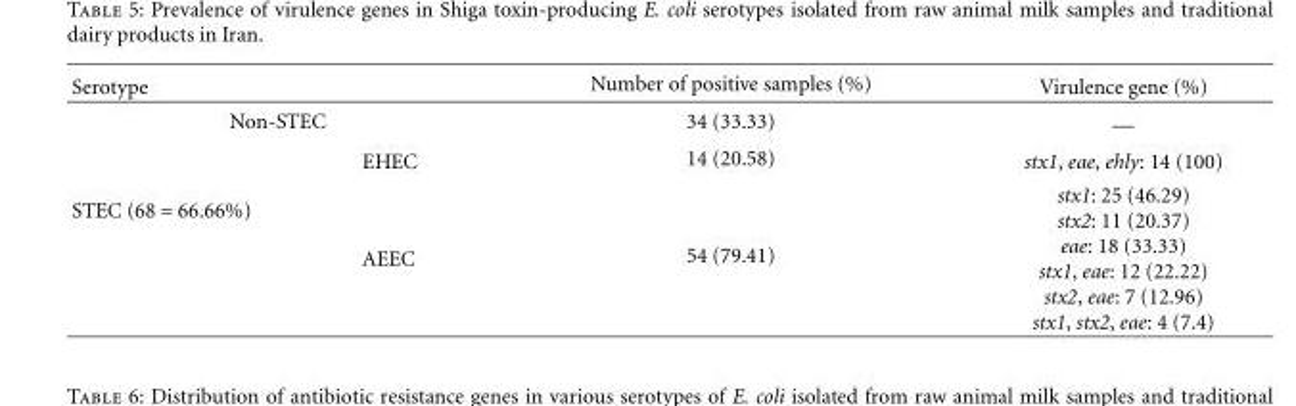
<table><thead><tr><td>Serotype</td><td></td><td>Number of positive samples (%)</td><td>Virulence gene (%)</td></tr></thead><tbody><tr><td colspan="2">Non-STEC</td><td>34 (33.33)</td><td>—</td></tr><tr><td rowspan="2">STEC (68 = 66.66%)</td><td>EHEC</td><td>14 (20.58)</td><td>stx1, eae, ehly: 14 (100)</td></tr><tr><td>AEEC</td><td>54 (79.41)</td><td>stx1: 25 (46.29) stx2: 11 (20.37) eae: 18 (33.33) stx1, eae: 12 (22.22) stx2, eae: 7 (12.96) stx1, stx2, eae: 4 (7.4)</td></tr></tbody></table>